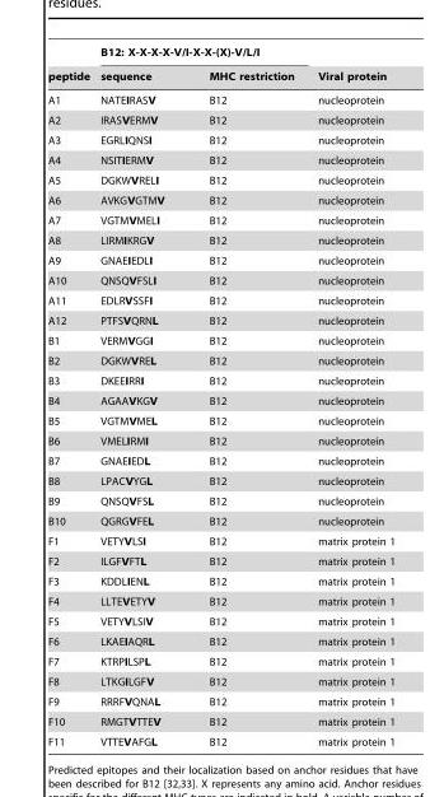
<table><thead><tr><td rowspan="2">peptide</td><td colspan="2">B12: X-X-X-X-V/I-X-X-(X)-V/L/I</td><td rowspan="2">Viral protein</td></tr><tr><td>sequence</td><td>MHC restriction</td></tr></thead><tbody><tr><td>A1</td><td>NATEIRASV</td><td>B12</td><td>nucleoprotein</td></tr><tr><td>A2</td><td>IRASVERMV</td><td>B12</td><td>nucleoprotein</td></tr><tr><td>A3</td><td>EGRLIQNSI</td><td>B12</td><td>nucleoprotein</td></tr><tr><td>A4</td><td>NSITIERMV</td><td>B12</td><td>nucleoprotein</td></tr><tr><td>A5</td><td>DGKWVRELI</td><td>B12</td><td>nucleoprotein</td></tr><tr><td>A6</td><td>AVKGVGTMV</td><td>B12</td><td>nucleoprotein</td></tr><tr><td>A7</td><td>VGTMVMELI</td><td>B12</td><td>nucleoprotein</td></tr><tr><td>A8</td><td>LIRMIKRGV</td><td>B12</td><td>nucleoprotein</td></tr><tr><td>A9</td><td>GNAEIEDLI</td><td>B12</td><td>nucleoprotein</td></tr><tr><td>A10</td><td>QNSQVFSLI</td><td>B12</td><td>nucleoprotein</td></tr><tr><td>A11</td><td>EDLRVSSFI</td><td>B12</td><td>nucleoprotein</td></tr><tr><td>A12</td><td>PTFSVQRNL</td><td>B12</td><td>nucleoprotein</td></tr><tr><td>B1</td><td>VERMVGGI</td><td>B12</td><td>nucleoprotein</td></tr><tr><td>B2</td><td>DGKWVREL</td><td>B12</td><td>nucleoprotein</td></tr><tr><td>B3</td><td>DKEEIRRI</td><td>B12</td><td>nucleoprotein</td></tr><tr><td>B4</td><td>AGAAVKGV</td><td>B12</td><td>nucleoprotein</td></tr><tr><td>B5</td><td>VGTMVMEL</td><td>B12</td><td>nucleoprotein</td></tr><tr><td>B6</td><td>VMELIRMI</td><td>B12</td><td>nucleoprotein</td></tr><tr><td>B7</td><td>GNAEIEDL</td><td>B12</td><td>nucleoprotein</td></tr><tr><td>B8</td><td>LPACVYGL</td><td>B12</td><td>nucleoprotein</td></tr><tr><td>B9</td><td>QNSQVFSL</td><td>B12</td><td>nucleoprotein</td></tr><tr><td>B10</td><td>QGRGVFEL</td><td>B12</td><td>nucleoprotein</td></tr><tr><td>F1</td><td>VETYVLSI</td><td>B12</td><td>matrix protein 1</td></tr><tr><td>F2</td><td>ILGFVFTL</td><td>B12</td><td>matrix protein 1</td></tr><tr><td>F3</td><td>KDDLIENL</td><td>B12</td><td>matrix protein 1</td></tr><tr><td>F4</td><td>LLTEVETYV</td><td>B12</td><td>matrix protein 1</td></tr><tr><td>F5</td><td>VETYVLSIV</td><td>B12</td><td>matrix protein 1</td></tr><tr><td>F6</td><td>LKAEIAQRL</td><td>B12</td><td>matrix protein 1</td></tr><tr><td>F7</td><td>KTRPILSPL</td><td>B12</td><td>matrix protein 1</td></tr><tr><td>F8</td><td>LTKGILGFV</td><td>B12</td><td>matrix protein 1</td></tr><tr><td>F9</td><td>RRRFVQNAL</td><td>B12</td><td>matrix protein 1</td></tr><tr><td>F10</td><td>RMGTVTTEV</td><td>B12</td><td>matrix protein 1</td></tr><tr><td>F11</td><td>VTTEVAFGL</td><td>B12</td><td>matrix protein 1</td></tr></tbody></table>